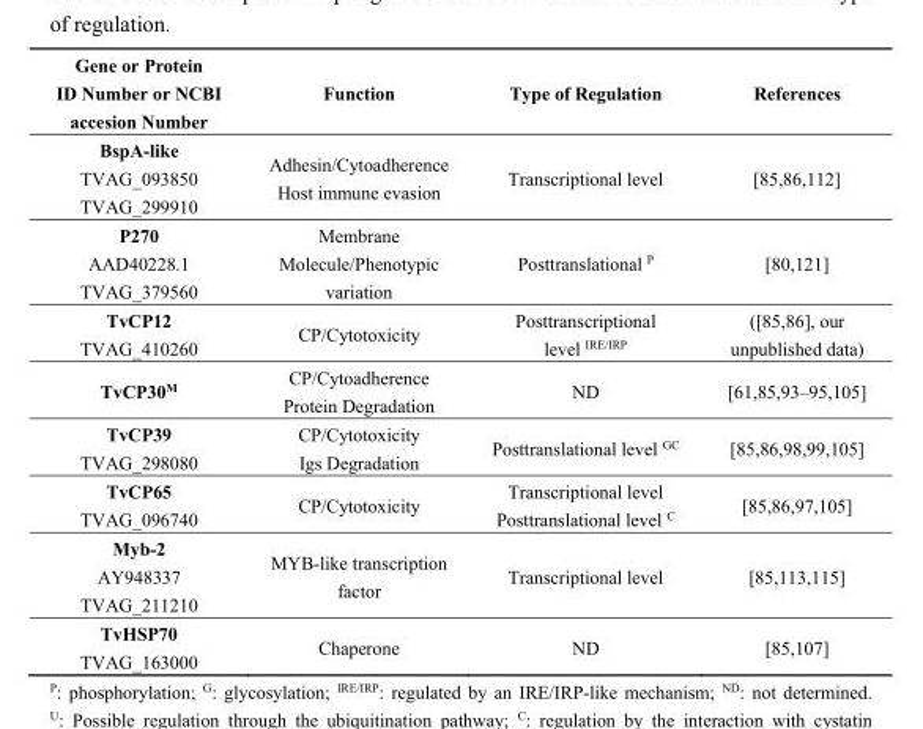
<table><thead><tr><td>Gene or Protein ID Number or NCBI accesion Number</td><td>Function</td><td>Type of Regulation</td><td>References</td></tr></thead><tbody><tr><td>BspA-like TVAG_093850 TVAG_299910</td><td>Adhesin/Cytoadherence Host immune evasion</td><td>Transcriptional level</td><td>[85,86,112]</td></tr><tr><td>P270 AAD40228.1 TVAG_379560</td><td>Membrane Molecule/Phenotypic variation</td><td>Posttranslational <sup>P</sup></td><td>[80,121]</td></tr><tr><td>TvCP12 TVAG_410260</td><td>CP/Cytotoxicity</td><td>Posttranscriptional level <sup>IRE/IRP</sup></td><td>([85,86], our unpublished data)</td></tr><tr><td>TvCP30<sup>M</sup></td><td>CP/Cytoadherence Protein Degradation</td><td>ND</td><td>[61,85,93–95,105]</td></tr><tr><td>TvCP39 TVAG_298080</td><td>CP/Cytotoxicity Igs Degradation</td><td>Posttranslational level <sup>GC</sup></td><td>[85,86,98,99,105]</td></tr><tr><td>TvCP65 TVAG_096740</td><td>CP/Cytotoxicity</td><td>Transcriptional level Posttranslational level <sup>C</sup></td><td>[85,86,97,105]</td></tr><tr><td>Myb-2 AY948337 TVAG_211210</td><td>MYB-like transcription factor</td><td>Transcriptional level</td><td>[85,113,115]</td></tr><tr><td>TvHSP70 TVAG_163000</td><td>Chaperone</td><td>ND</td><td>[85,107]</td></tr></tbody></table>